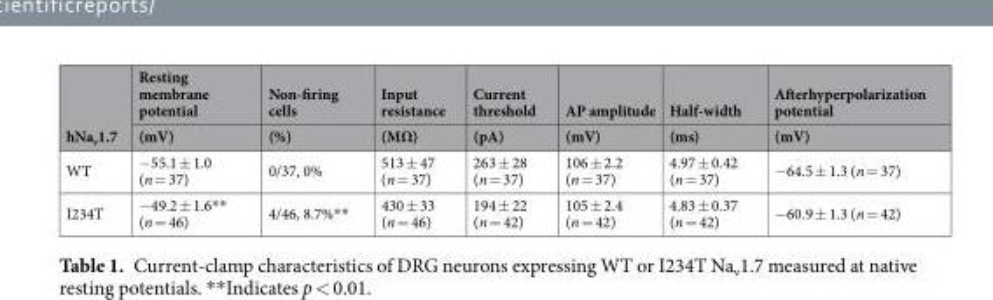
<table><thead><tr><td rowspan="2">hNa<sub>v</sub>1.7</td><td rowspan="2">Resting membrane potential (mV)</td><td rowspan="2">Non-firing cells (%)</td><td rowspan="2">Input resistance (MΩ)</td><td rowspan="2">Current threshold (pA)</td><td rowspan="2">AP amplitude (mV)</td><td rowspan="2">Half-width (ms)</td><td rowspan="2">Afterhyperpolarization potential (mV)</td></tr><tr></tr></thead><tbody><tr><td>WT</td><td>−55.1 ± 1.0 (n = 37)</td><td>0/37, 0%</td><td>513 ± 47 (n = 37)</td><td>263 ± 28 (n = 37)</td><td>106 ± 2.2 (n = 37)</td><td>4.97 ± 0.42 (n = 37)</td><td>−64.5 ± 1.3 (n = 37)</td></tr><tr><td>I234T</td><td>−49.2 ± 1.6** (n = 46)</td><td>4/46, 8.7%**</td><td>430 ± 33 (n = 46)</td><td>194 ± 22 (n = 42)</td><td>105 ± 2.4 (n = 42)</td><td>4.83 ± 0.37 (n = 42)</td><td>−60.9 ± 1.3 (n = 42)</td></tr></tbody></table>